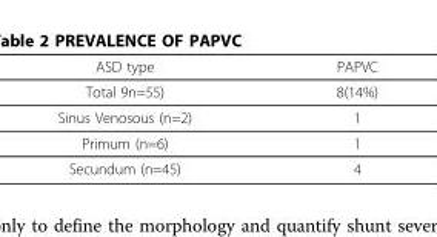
<table><thead><tr><td>ASD type</td><td>PAPVC</td></tr></thead><tbody><tr><td>Total 9n=55)</td><td>8(14%)</td></tr><tr><td>Sinus Venosous (n=2)</td><td>1</td></tr><tr><td>Primum (n=6)</td><td>1</td></tr><tr><td>Secundum (n=45)</td><td>4</td></tr></tbody></table>